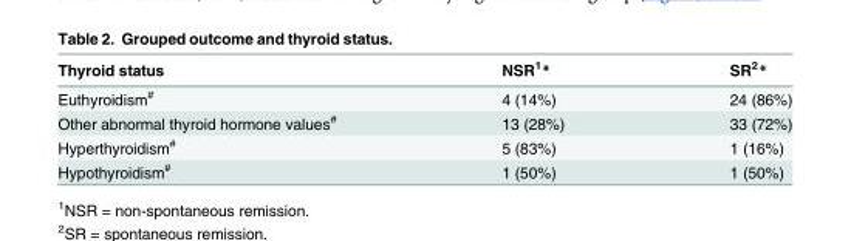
<table><thead><tr><td>Thyroid status</td><td>NSR<sup>1</sup>*</td><td>SR<sup>2</sup>*</td></tr></thead><tbody><tr><td>Euthyroidism<sup>#</sup></td><td>4 (14%)</td><td>24 (86%)</td></tr><tr><td>Other abnormal thyroid hormone values<sup>#</sup></td><td>13 (28%)</td><td>33 (72%)</td></tr><tr><td>Hyperthyroidism<sup>#</sup></td><td>5 (83%)</td><td>1 (16%)</td></tr><tr><td>Hypothyroidism<sup>#</sup></td><td>1 (50%)</td><td>1 (50%)</td></tr></tbody></table>